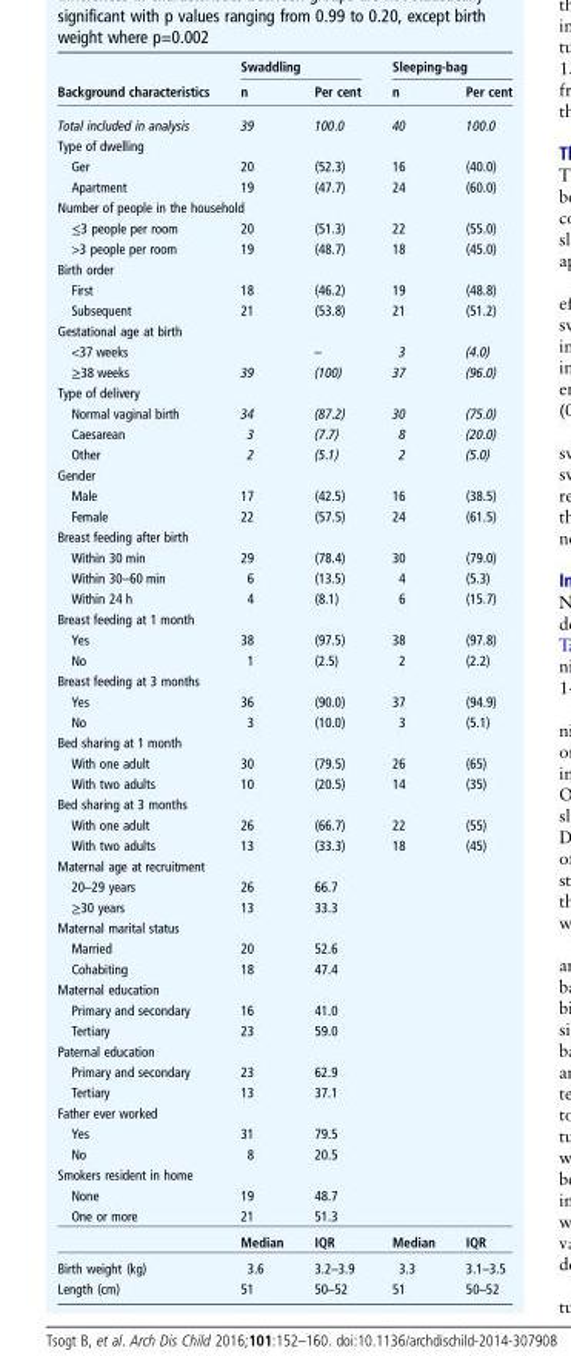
<table><thead><tr><td rowspan="2">Background characteristics</td><td colspan="2">Swaddling</td><td colspan="2">Sleeping-bag</td></tr><tr><td>n</td><td>Per cent</td><td>n</td><td>Per cent</td></tr></thead><tbody><tr><td>Total included in analysis</td><td>39</td><td>100.0</td><td>40</td><td>100.0</td></tr><tr><td colspan="5">Type of dwelling</td></tr><tr><td>Ger</td><td>20</td><td>(52.3)</td><td>16</td><td>(40.0)</td></tr><tr><td>Apartment</td><td>19</td><td>(47.7)</td><td>24</td><td>(60.0)</td></tr><tr><td colspan="5">Number of people in the household</td></tr><tr><td>≤3 people per room</td><td>20</td><td>(51.3)</td><td>22</td><td>(55.0)</td></tr><tr><td>&gt;3 people per room</td><td>19</td><td>(48.7)</td><td>18</td><td>(45.0)</td></tr><tr><td colspan="5">Birth order</td></tr><tr><td>First</td><td>18</td><td>(46.2)</td><td>19</td><td>(48.8)</td></tr><tr><td>Subsequent</td><td>21</td><td>(53.8)</td><td>21</td><td>(51.2)</td></tr><tr><td colspan="5">Gestational age at birth</td></tr><tr><td>&lt;37 weeks</td><td></td><td>–</td><td>3</td><td>(4.0)</td></tr><tr><td>≥38 weeks</td><td>39</td><td>(100)</td><td>37</td><td>(96.0)</td></tr><tr><td colspan="5">Type of delivery</td></tr><tr><td>Normal vaginal birth</td><td>34</td><td>(87.2)</td><td>30</td><td>(75.0)</td></tr><tr><td>Caesarean</td><td>3</td><td>(7.7)</td><td>8</td><td>(20.0)</td></tr><tr><td>Other</td><td>2</td><td>(5.1)</td><td>2</td><td>(5.0)</td></tr><tr><td colspan="5">Gender</td></tr><tr><td>Male</td><td>17</td><td>(42.5)</td><td>16</td><td>(38.5)</td></tr><tr><td>Female</td><td>22</td><td>(57.5)</td><td>24</td><td>(61.5)</td></tr><tr><td colspan="5">Breast feeding after birth</td></tr><tr><td>Within 30 min</td><td>29</td><td>(78.4)</td><td>30</td><td>(79.0)</td></tr><tr><td>Within 30–60 min</td><td>6</td><td>(13.5)</td><td>4</td><td>(5.3)</td></tr><tr><td>Within 24 h</td><td>4</td><td>(8.1)</td><td>6</td><td>(15.7)</td></tr><tr><td colspan="5">Breast feeding at 1 month</td></tr><tr><td>Yes</td><td>38</td><td>(97.5)</td><td>38</td><td>(97.8)</td></tr><tr><td>No</td><td>1</td><td>(2.5)</td><td>2</td><td>(2.2)</td></tr><tr><td colspan="5">Breast feeding at 3 months</td></tr><tr><td>Yes</td><td>36</td><td>(90.0)</td><td>37</td><td>(94.9)</td></tr><tr><td>No</td><td>3</td><td>(10.0)</td><td>3</td><td>(5.1)</td></tr><tr><td colspan="5">Bed sharing at 1 month</td></tr><tr><td>With one adult</td><td>30</td><td>(79.5)</td><td>26</td><td>(65)</td></tr><tr><td>With two adults</td><td>10</td><td>(20.5)</td><td>14</td><td>(35)</td></tr><tr><td colspan="5">Bed sharing at 3 months</td></tr><tr><td>With one adult</td><td>26</td><td>(66.7)</td><td>22</td><td>(55)</td></tr><tr><td>With two adults</td><td>13</td><td>(33.3)</td><td>18</td><td>(45)</td></tr><tr><td colspan="5">Maternal age at recruitment</td></tr><tr><td>20–29 years</td><td>26</td><td>66.7</td><td></td><td></td></tr><tr><td>≥30 years</td><td>13</td><td>33.3</td><td></td><td></td></tr><tr><td colspan="5">Maternal marital status</td></tr><tr><td>Married</td><td>20</td><td>52.6</td><td></td><td></td></tr><tr><td>Cohabiting</td><td>18</td><td>47.4</td><td></td><td></td></tr><tr><td colspan="5">Maternal education</td></tr><tr><td>Primary and secondary</td><td>16</td><td>41.0</td><td></td><td></td></tr><tr><td>Tertiary</td><td>23</td><td>59.0</td><td></td><td></td></tr><tr><td colspan="5">Paternal education</td></tr><tr><td>Primary and secondary</td><td>23</td><td>62.9</td><td></td><td></td></tr><tr><td>Tertiary</td><td>13</td><td>37.1</td><td></td><td></td></tr><tr><td colspan="5">Father ever worked</td></tr><tr><td>Yes</td><td>31</td><td>79.5</td><td></td><td></td></tr><tr><td>No</td><td>8</td><td>20.5</td><td></td><td></td></tr><tr><td colspan="5">Smokers resident in home</td></tr><tr><td>None</td><td>19</td><td>48.7</td><td></td><td></td></tr><tr><td rowspan="2">One or more</td><td>21</td><td>51.3</td><td></td><td></td></tr><tr><td>Median</td><td>IQR</td><td>Median</td><td>IQR</td></tr><tr><td>Birth weight (kg)</td><td>3.6</td><td>3.2–3.9</td><td>3.3</td><td>3.1–3.5</td></tr><tr><td>Length (cm)</td><td>51</td><td>50–52</td><td>51</td><td>50–52</td></tr></tbody></table>